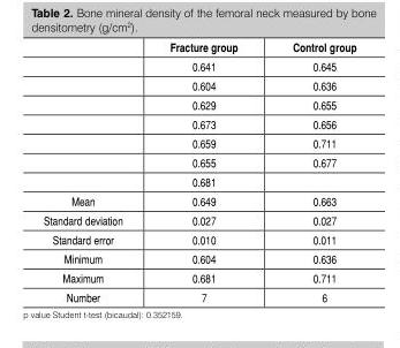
<table><thead><tr><td></td><td>Fracture group</td><td>Control group</td></tr></thead><tbody><tr><td></td><td>0.641</td><td>0.645</td></tr><tr><td></td><td>0.604</td><td>0.636</td></tr><tr><td></td><td>0.629</td><td>0.655</td></tr><tr><td></td><td>0.673</td><td>0.656</td></tr><tr><td></td><td>0.659</td><td>0.711</td></tr><tr><td></td><td>0.655</td><td>0.677</td></tr><tr><td></td><td>0.681</td><td></td></tr><tr><td>Mean</td><td>0.649</td><td>0.663</td></tr><tr><td>Standard deviation</td><td>0.027</td><td>0.027</td></tr><tr><td>Standard error</td><td>0.010</td><td>0.011</td></tr><tr><td>Minimum</td><td>0.604</td><td>0.636</td></tr><tr><td>Maximum</td><td>0.681</td><td>0.711</td></tr><tr><td>Number</td><td>7</td><td>6</td></tr></tbody></table>